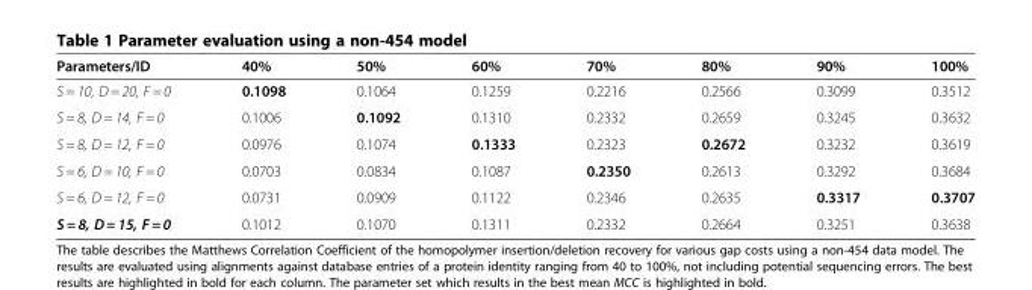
<table><thead><tr><td>Parameters/ID</td><td>40%</td><td>50%</td><td>60%</td><td>70%</td><td>80%</td><td>90%</td><td>100%</td></tr></thead><tbody><tr><td>S = 10, D = 20, F = 0</td><td>0.1098</td><td>0.1064</td><td>0.1259</td><td>0.2216</td><td>0.2566</td><td>0.3099</td><td>0.3512</td></tr><tr><td>S = 8, D = 14, F = 0</td><td>0.1006</td><td>0.1092</td><td>0.1310</td><td>0.2332</td><td>0.2659</td><td>0.3245</td><td>0.3632</td></tr><tr><td>S = 8, D = 12, F = 0</td><td>0.0976</td><td>0.1074</td><td>0.1333</td><td>0.2323</td><td>0.2672</td><td>0.3232</td><td>0.3619</td></tr><tr><td>S = 6, D = 10, F = 0</td><td>0.0703</td><td>0.0834</td><td>0.1087</td><td>0.2350</td><td>0.2613</td><td>0.3292</td><td>0.3684</td></tr><tr><td>S = 6, D = 12, F = 0</td><td>0.0731</td><td>0.0909</td><td>0.1122</td><td>0.2346</td><td>0.2635</td><td>0.3317</td><td>0.3707</td></tr><tr><td>S = 8, D = 15, F = 0</td><td>0.1012</td><td>0.1070</td><td>0.1311</td><td>0.2332</td><td>0.2664</td><td>0.3251</td><td>0.3638</td></tr></tbody></table>